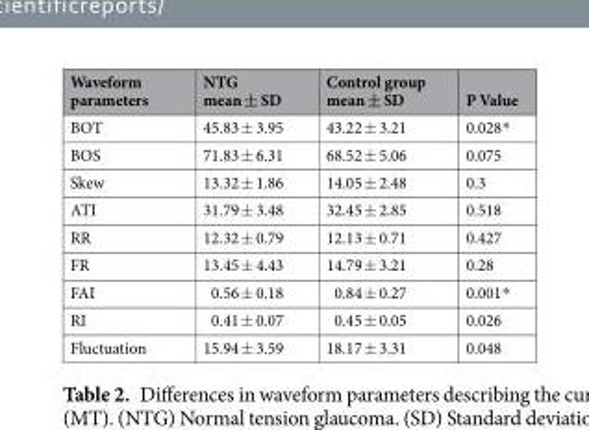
<table><thead><tr><td>Waveform parameters</td><td>NTG mean ± SD</td><td>Control group mean ± SD</td><td>P Value</td></tr></thead><tbody><tr><td>BOT</td><td>45.83 ± 3.95</td><td>43.22 ± 3.21</td><td>0.028*</td></tr><tr><td>BOS</td><td>71.83 ± 6.31</td><td>68.52 ± 5.06</td><td>0.075</td></tr><tr><td>Skew</td><td>13.32 ± 1.86</td><td>14.05 ± 2.48</td><td>0.3</td></tr><tr><td>ATI</td><td>31.79 ± 3.48</td><td>32.45 ± 2.85</td><td>0.518</td></tr><tr><td>RR</td><td>12.32 ± 0.79</td><td>12.13 ± 0.71</td><td>0.427</td></tr><tr><td>FR</td><td>13.45 ± 4.43</td><td>14.79 ± 3.21</td><td>0.28</td></tr><tr><td>FAI</td><td>0.56 ± 0.18</td><td>0.84 ± 0.27</td><td>0.001*</td></tr><tr><td>RI</td><td>0.41 ± 0.07</td><td>0.45 ± 0.05</td><td>0.026</td></tr><tr><td>Fluctuation</td><td>15.94 ± 3.59</td><td>18.17 ± 3.31</td><td>0.048</td></tr></tbody></table>